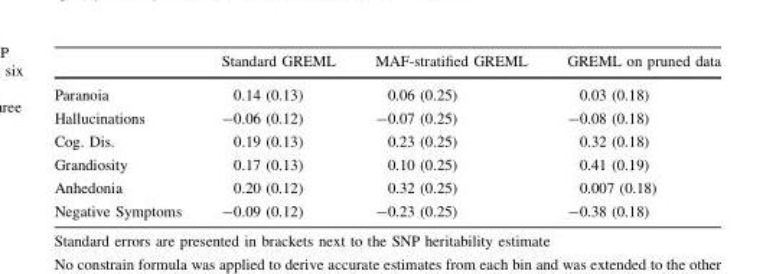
<table><thead><tr><td></td><td>Standard GREML</td><td>MAF-stratified GREML</td><td>GREML on pruned data</td></tr></thead><tbody><tr><td>Paranoia</td><td>0.14 (0.13)</td><td>0.06 (0.25)</td><td>0.03 (0.18)</td></tr><tr><td>Hallucinations</td><td>-0.06 (0.12)</td><td>-0.07 (0.25)</td><td>-0.08 (0.18)</td></tr><tr><td>Cog. Dis.</td><td>0.19 (0.13)</td><td>0.23 (0.25)</td><td>0.32 (0.18)</td></tr><tr><td>Grandiosity</td><td>0.17 (0.13)</td><td>0.10 (0.25)</td><td>0.41 (0.19)</td></tr><tr><td>Anhedonia</td><td>0.20 (0.12)</td><td>0.32 (0.25)</td><td>0.007 (0.18)</td></tr><tr><td>Negative Symptoms</td><td>-0.09 (0.12)</td><td>-0.23 (0.25)</td><td>-0.38 (0.18)</td></tr></tbody></table>